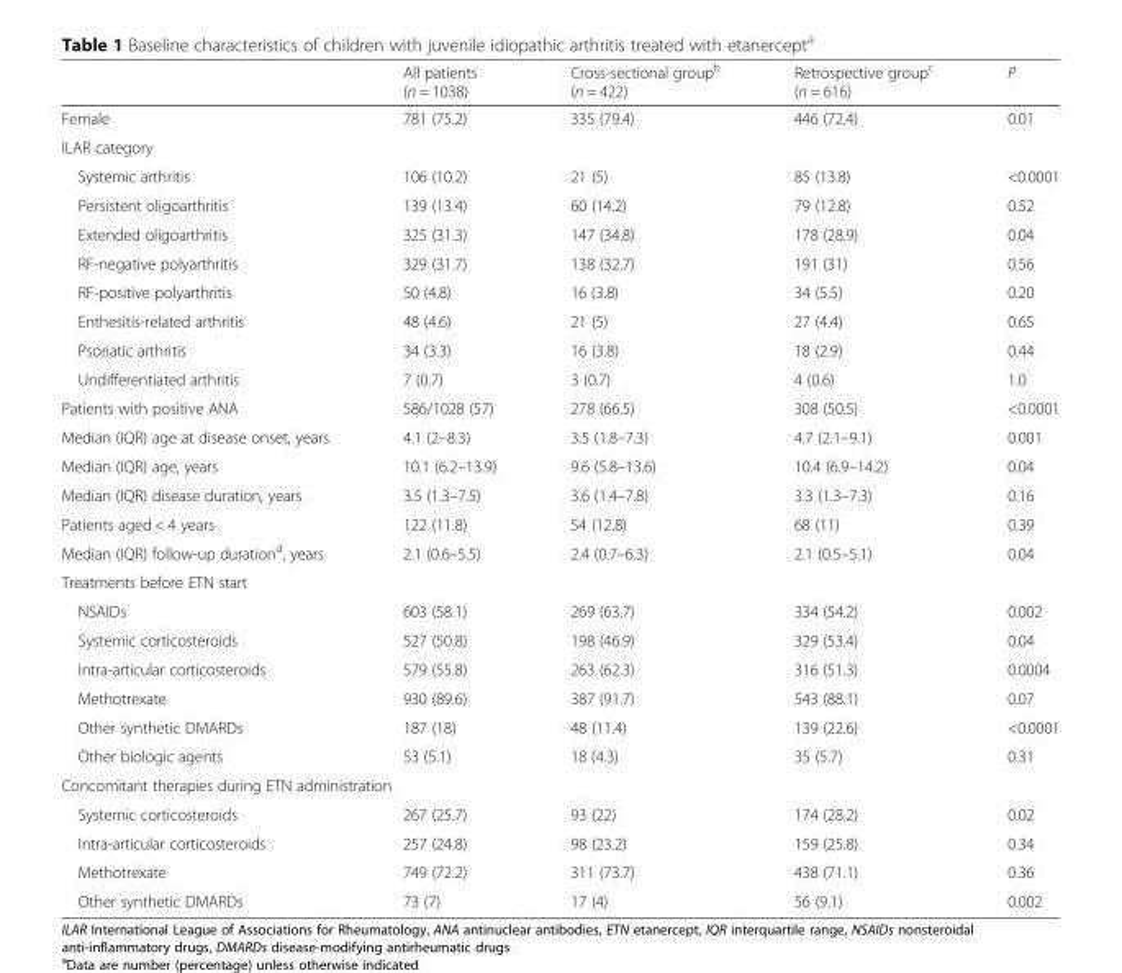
<table><thead><tr><td></td><td>All patients (n = 1038)</td><td>Cross-sectional group<sup>b</sup> (n = 422)</td><td>Retrospective group<sup>c</sup> (n = 616)</td><td>P</td></tr></thead><tbody><tr><td>Female</td><td>781 (75.2)</td><td>335 (79.4)</td><td>446 (72.4)</td><td>0.01</td></tr><tr><td colspan="5">ILAR category</td></tr><tr><td>Systemic arthritis</td><td>106 (10.2)</td><td>21 (5)</td><td>85 (13.8)</td><td>&lt;0.0001</td></tr><tr><td>Persistent oligoarthritis</td><td>139 (13.4)</td><td>60 (14.2)</td><td>79 (12.8)</td><td>0.52</td></tr><tr><td>Extended oligoarthritis</td><td>325 (31.3)</td><td>147 (34.8)</td><td>178 (28.9)</td><td>0.04</td></tr><tr><td>RF-negative polyarthritis</td><td>329 (31.7)</td><td>138 (32.7)</td><td>191 (31)</td><td>0.56</td></tr><tr><td>RF-positive polyarthritis</td><td>50 (4.8)</td><td>16 (3.8)</td><td>34 (5.5)</td><td>0.20</td></tr><tr><td>Enthesitis-related arthritis</td><td>48 (4.6)</td><td>21 (5)</td><td>27 (4.4)</td><td>0.65</td></tr><tr><td>Psoriatic arthritis</td><td>34 (3.3)</td><td>16 (3.8)</td><td>18 (2.9)</td><td>0.44</td></tr><tr><td>Undifferentiated arthritis</td><td>7 (0.7)</td><td>3 (0.7)</td><td>4 (0.6)</td><td>1.0</td></tr><tr><td>Patients with positive ANA</td><td>586/1028 (57)</td><td>278 (66.5)</td><td>308 (50.5)</td><td>&lt;0.0001</td></tr><tr><td>Median (IQR) age at disease onset, years</td><td>4.1 (2–8.3)</td><td>3.5 (1.8–7.3)</td><td>4.7 (2.1–9.1)</td><td>0.001</td></tr><tr><td>Median (IQR) age, years</td><td>10.1 (6.2–13.9)</td><td>9.6 (5.8–13.6)</td><td>10.4 (6.9–14.2)</td><td>0.04</td></tr><tr><td>Median (IQR) disease duration, years</td><td>3.5 (1.3–7.5)</td><td>3.6 (1.4–7.8)</td><td>3.3 (1.3–7.3)</td><td>0.16</td></tr><tr><td>Patients aged &lt; 4 years</td><td>122 (11.8)</td><td>54 (12.8)</td><td>68 (11)</td><td>0.39</td></tr><tr><td>Median (IQR) follow-up duration<sup>d</sup>, years</td><td>2.1 (0.6–5.5)</td><td>2.4 (0.7–6.3)</td><td>2.1 (0.5–5.1)</td><td>0.04</td></tr><tr><td colspan="5">Treatments before ETN start</td></tr><tr><td>NSAIDs</td><td>603 (58.1)</td><td>269 (63.7)</td><td>334 (54.2)</td><td>0.002</td></tr><tr><td>Systemic corticosteroids</td><td>527 (50.8)</td><td>198 (46.9)</td><td>329 (53.4)</td><td>0.04</td></tr><tr><td>Intra-articular corticosteroids</td><td>579 (55.8)</td><td>263 (62.3)</td><td>316 (51.3)</td><td>0.0004</td></tr><tr><td>Methotrexate</td><td>930 (89.6)</td><td>387 (91.7)</td><td>543 (88.1)</td><td>0.07</td></tr><tr><td>Other synthetic DMARDs</td><td>187 (18)</td><td>48 (11.4)</td><td>139 (22.6)</td><td>&lt;0.0001</td></tr><tr><td>Other biologic agents</td><td>53 (5.1)</td><td>18 (4.3)</td><td>35 (5.7)</td><td>0.31</td></tr><tr><td colspan="5">Concomitant therapies during ETN administration</td></tr><tr><td>Systemic corticosteroids</td><td>267 (25.7)</td><td>93 (22)</td><td>174 (28.2)</td><td>0.02</td></tr><tr><td>Intra-articular corticosteroids</td><td>257 (24.8)</td><td>98 (23.2)</td><td>159 (25.8)</td><td>0.34</td></tr><tr><td>Methotrexate</td><td>749 (72.2)</td><td>311 (73.7)</td><td>438 (71.1)</td><td>0.36</td></tr><tr><td>Other synthetic DMARDs</td><td>73 (7)</td><td>17 (4)</td><td>56 (9.1)</td><td>0.002</td></tr></tbody></table>